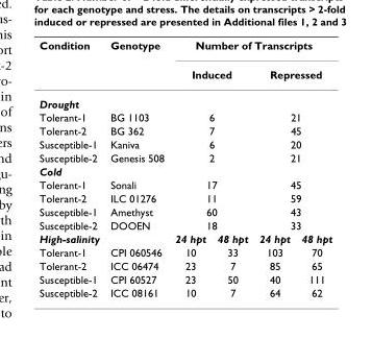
<table><thead><tr><td rowspan="3">Condition Drought</td><td rowspan="3">Genotype</td><td colspan="4">Number of Transcripts</td></tr><tr><td colspan="2">Induced</td><td colspan="2">Repressed</td></tr><tr><td></td><td></td><td></td><td></td></tr></thead><tbody><tr><td>Tolerant-1</td><td>BG 1103</td><td colspan="2">6</td><td colspan="2">21</td></tr><tr><td>Tolerant-2</td><td>BG 362</td><td colspan="2">7</td><td colspan="2">45</td></tr><tr><td>Susceptible-1</td><td>Kaniva</td><td colspan="2">6</td><td colspan="2">20</td></tr><tr><td>Susceptible-2</td><td>Genesis 508</td><td colspan="2">2</td><td colspan="2">21</td></tr><tr><td colspan="6">Cold</td></tr><tr><td>Tolerant-1</td><td>Sonali</td><td colspan="2">17</td><td colspan="2">45</td></tr><tr><td>Tolerant-2</td><td>ILC 01276</td><td colspan="2">11</td><td colspan="2">59</td></tr><tr><td>Susceptible-1</td><td>Amethyst</td><td colspan="2">60</td><td colspan="2">43</td></tr><tr><td>Susceptible-2</td><td>DOOEN</td><td colspan="2">18</td><td colspan="2">33</td></tr><tr><td>High-salinity</td><td></td><td>24 hpt</td><td>48 hpt</td><td>24 hpt</td><td>48 hpt</td></tr><tr><td>Tolerant-1</td><td>CPI 060546</td><td>10</td><td>33</td><td>103</td><td>70</td></tr><tr><td>Tolerant-2</td><td>ICC 06474</td><td>23</td><td>7</td><td>85</td><td>65</td></tr><tr><td>Susceptible-1</td><td>CPI 60527</td><td>23</td><td>50</td><td>40</td><td>111</td></tr><tr><td>Susceptible-2</td><td>ICC 08161</td><td>10</td><td>7</td><td>64</td><td>62</td></tr></tbody></table>